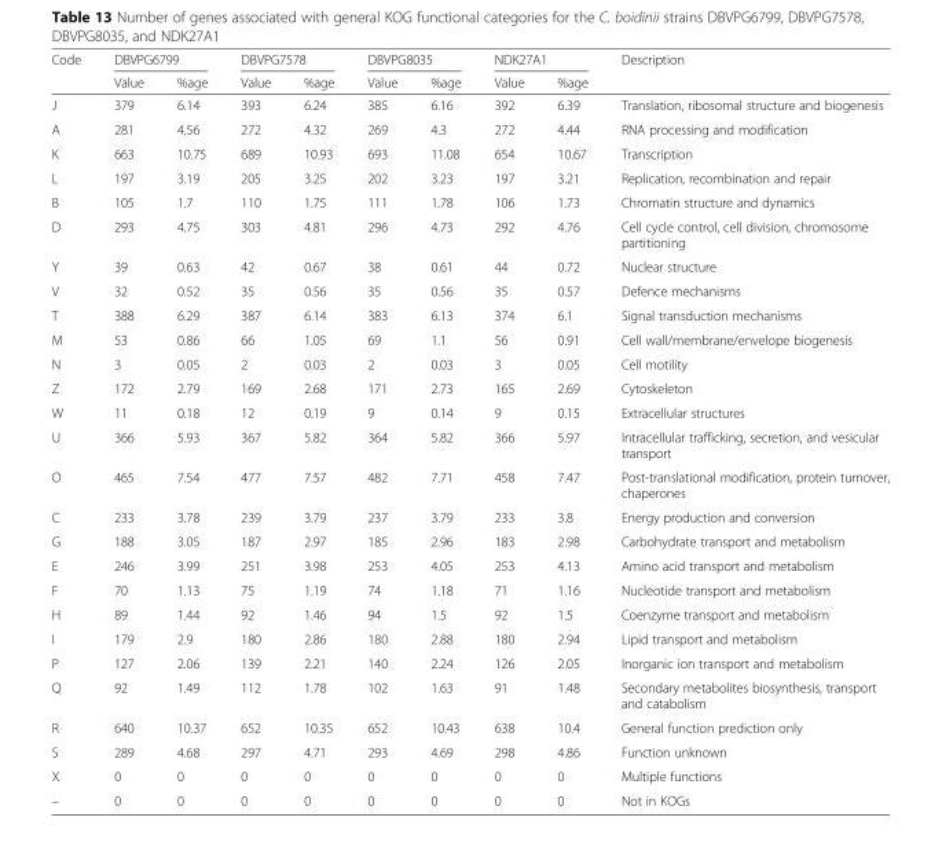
<table><thead><tr><td rowspan="2">Code</td><td colspan="2">DBVPG6799</td><td colspan="2">DBVPG7578</td><td colspan="2">DBVPG8035</td><td colspan="2">NDK27A1</td><td rowspan="2">Description</td></tr><tr><td>Value</td><td>%age</td><td>Value</td><td>%age</td><td>Value</td><td>%age</td><td>Value</td><td>%age</td></tr></thead><tbody><tr><td>J</td><td>379</td><td>6.14</td><td>393</td><td>6.24</td><td>385</td><td>6.16</td><td>392</td><td>6.39</td><td>Translation, ribosomal structure and biogenesis</td></tr><tr><td>A</td><td>281</td><td>4.56</td><td>272</td><td>4.32</td><td>269</td><td>4.3</td><td>272</td><td>4.44</td><td>RNA processing and modification</td></tr><tr><td>K</td><td>663</td><td>10.75</td><td>689</td><td>10.93</td><td>693</td><td>11.08</td><td>654</td><td>10.67</td><td>Transcription</td></tr><tr><td>L</td><td>197</td><td>3.19</td><td>205</td><td>3.25</td><td>202</td><td>3.23</td><td>197</td><td>3.21</td><td>Replication, recombination and repair</td></tr><tr><td>B</td><td>105</td><td>1.7</td><td>110</td><td>1.75</td><td>111</td><td>1.78</td><td>106</td><td>1.73</td><td>Chromatin structure and dynamics</td></tr><tr><td>D</td><td>293</td><td>4.75</td><td>303</td><td>4.81</td><td>296</td><td>4.73</td><td>292</td><td>4.76</td><td>Cell cycle control, cell division, chromosome partitioning</td></tr><tr><td>Y</td><td>39</td><td>0.63</td><td>42</td><td>0.67</td><td>38</td><td>0.61</td><td>44</td><td>0.72</td><td>Nuclear structure</td></tr><tr><td>V</td><td>32</td><td>0.52</td><td>35</td><td>0.56</td><td>35</td><td>0.56</td><td>35</td><td>0.57</td><td>Defence mechanisms</td></tr><tr><td>T</td><td>388</td><td>6.29</td><td>387</td><td>6.14</td><td>383</td><td>6.13</td><td>374</td><td>6.1</td><td>Signal transduction mechanisms</td></tr><tr><td>M</td><td>53</td><td>0.86</td><td>66</td><td>1.05</td><td>69</td><td>1.1</td><td>56</td><td>0.91</td><td>Cell wall/membrane/envelope biogenesis</td></tr><tr><td>N</td><td>3</td><td>0.05</td><td>2</td><td>0.03</td><td>2</td><td>0.03</td><td>3</td><td>0.05</td><td>Cell motility</td></tr><tr><td>Z</td><td>172</td><td>2.79</td><td>169</td><td>2.68</td><td>171</td><td>2.73</td><td>165</td><td>2.69</td><td>Cytoskeleton</td></tr><tr><td>W</td><td>11</td><td>0.18</td><td>12</td><td>0.19</td><td>9</td><td>0.14</td><td>9</td><td>0.15</td><td>Extracellular structures</td></tr><tr><td>U</td><td>366</td><td>5.93</td><td>367</td><td>5.82</td><td>364</td><td>5.82</td><td>366</td><td>5.97</td><td>Intracellular trafficking, secretion, and vesicular transport</td></tr><tr><td>O</td><td>465</td><td>7.54</td><td>477</td><td>7.57</td><td>482</td><td>7.71</td><td>458</td><td>7.47</td><td>Post-translational modification, protein turnover, chaperones</td></tr><tr><td>C</td><td>233</td><td>3.78</td><td>239</td><td>3.79</td><td>237</td><td>3.79</td><td>233</td><td>3.8</td><td>Energy production and conversion</td></tr><tr><td>G</td><td>188</td><td>3.05</td><td>187</td><td>2.97</td><td>185</td><td>2.96</td><td>183</td><td>2.98</td><td>Carbohydrate transport and metabolism</td></tr><tr><td>E</td><td>246</td><td>3.99</td><td>251</td><td>3.98</td><td>253</td><td>4.05</td><td>253</td><td>4.13</td><td>Amino acid transport and metabolism</td></tr><tr><td>F</td><td>70</td><td>1.13</td><td>75</td><td>1.19</td><td>74</td><td>1.18</td><td>71</td><td>1.16</td><td>Nucleotide transport and metabolism</td></tr><tr><td>H</td><td>89</td><td>1.44</td><td>92</td><td>1.46</td><td>94</td><td>1.5</td><td>92</td><td>1.5</td><td>Coenzyme transport and metabolism</td></tr><tr><td>I</td><td>179</td><td>2.9</td><td>180</td><td>2.86</td><td>180</td><td>2.88</td><td>180</td><td>2.94</td><td>Lipid transport and metabolism</td></tr><tr><td>P</td><td>127</td><td>2.06</td><td>139</td><td>2.21</td><td>140</td><td>2.24</td><td>126</td><td>2.05</td><td>Inorganic ion transport and metabolism</td></tr><tr><td>Q</td><td>92</td><td>1.49</td><td>112</td><td>1.78</td><td>102</td><td>1.63</td><td>91</td><td>1.48</td><td>Secondary metabolites biosynthesis, transport and catabolism</td></tr><tr><td>R</td><td>640</td><td>10.37</td><td>652</td><td>10.35</td><td>652</td><td>10.43</td><td>638</td><td>10.4</td><td>General function prediction only</td></tr><tr><td>S</td><td>289</td><td>4.68</td><td>297</td><td>4.71</td><td>293</td><td>4.69</td><td>298</td><td>4.86</td><td>Function unknown</td></tr><tr><td>X</td><td>0</td><td>0</td><td>0</td><td>0</td><td>0</td><td>0</td><td>0</td><td>0</td><td>Multiple functions</td></tr><tr><td>–</td><td>0</td><td>0</td><td>0</td><td>0</td><td>0</td><td>0</td><td>0</td><td>0</td><td>Not in KOGs</td></tr></tbody></table>